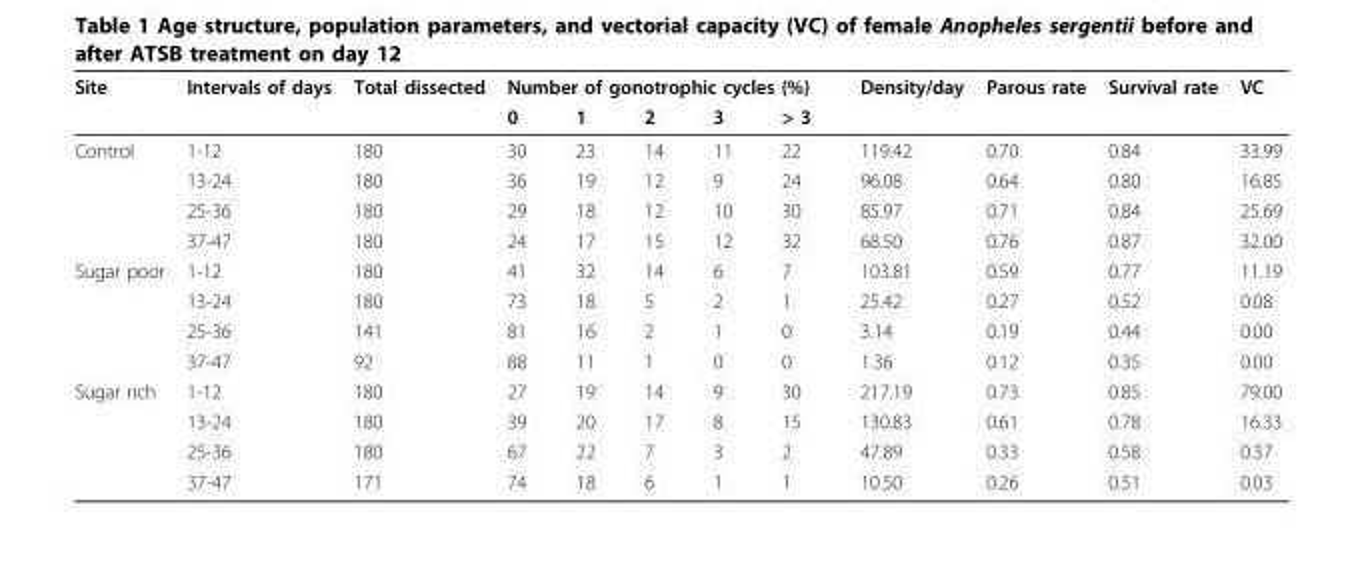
<table><thead><tr><td rowspan="2">Site</td><td rowspan="2">Intervals of days</td><td rowspan="2">Total dissected</td><td colspan="5">Number of gonotrophic cycles (%)</td><td rowspan="2">Density/day</td><td rowspan="2">Parous rate</td><td rowspan="2">Survival rate</td><td rowspan="2">VC</td></tr><tr><td>0</td><td>1</td><td>2</td><td>3</td><td>&gt; 3</td></tr></thead><tbody><tr><td rowspan="4">Control</td><td>1-12</td><td>180</td><td>30</td><td>23</td><td>14</td><td>11</td><td>22</td><td>119.42</td><td>0.70</td><td>0.84</td><td>33.99</td></tr><tr><td>13-24</td><td>180</td><td>36</td><td>19</td><td>12</td><td>9</td><td>24</td><td>96.08</td><td>0.64</td><td>0.80</td><td>16.85</td></tr><tr><td>25-36</td><td>180</td><td>29</td><td>18</td><td>12</td><td>10</td><td>30</td><td>85.97</td><td>0.71</td><td>0.84</td><td>25.69</td></tr><tr><td>37-47</td><td>180</td><td>24</td><td>17</td><td>15</td><td>12</td><td>32</td><td>68.50</td><td>0.76</td><td>0.87</td><td>32.00</td></tr><tr><td rowspan="4">Sugar poor</td><td>1-12</td><td>180</td><td>41</td><td>32</td><td>14</td><td>6</td><td>7</td><td>103.81</td><td>0.59</td><td>0.77</td><td>11.19</td></tr><tr><td>13-24</td><td>180</td><td>73</td><td>18</td><td>5</td><td>2</td><td>1</td><td>25.42</td><td>0.27</td><td>0.52</td><td>0.08</td></tr><tr><td>25-36</td><td>141</td><td>81</td><td>16</td><td>2</td><td>1</td><td>0</td><td>3.14</td><td>0.19</td><td>0.44</td><td>0.00</td></tr><tr><td>37-47</td><td>92</td><td>88</td><td>11</td><td>1</td><td>0</td><td>0</td><td>1.36</td><td>0.12</td><td>0.35</td><td>0.00</td></tr><tr><td rowspan="4">Sugar rich</td><td>1-12</td><td>180</td><td>27</td><td>19</td><td>14</td><td>9</td><td>30</td><td>217.19</td><td>0.73</td><td>0.85</td><td>79.00</td></tr><tr><td>13-24</td><td>180</td><td>39</td><td>20</td><td>17</td><td>8</td><td>15</td><td>130.83</td><td>0.61</td><td>0.78</td><td>16.33</td></tr><tr><td>25-36</td><td>180</td><td>67</td><td>22</td><td>7</td><td>3</td><td>2</td><td>47.89</td><td>0.33</td><td>0.58</td><td>0.37</td></tr><tr><td>37-47</td><td>171</td><td>74</td><td>18</td><td>6</td><td>1</td><td>1</td><td>10.50</td><td>0.26</td><td>0.51</td><td>0.03</td></tr></tbody></table>